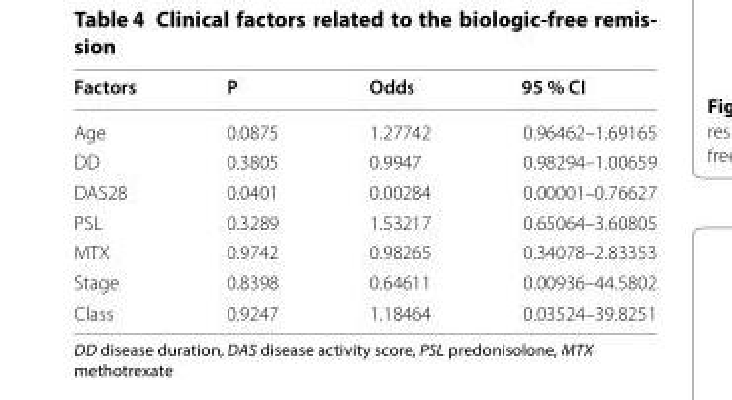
<table><thead><tr><td>Factors</td><td>P</td><td>Odds</td><td>95 % CI</td></tr></thead><tbody><tr><td>Age</td><td>0.0875</td><td>1.27742</td><td>0.96462–1.69165</td></tr><tr><td>DD</td><td>0.3805</td><td>0.9947</td><td>0.98294–1.00659</td></tr><tr><td>DAS28</td><td>0.0401</td><td>0.00284</td><td>0.00001–0.76627</td></tr><tr><td>PSL</td><td>0.3289</td><td>1.53217</td><td>0.65064–3.60805</td></tr><tr><td>MTX</td><td>0.9742</td><td>0.98265</td><td>0.34078–2.83353</td></tr><tr><td>Stage</td><td>0.8398</td><td>0.64611</td><td>0.00936–44.5802</td></tr><tr><td>Class</td><td>0.9247</td><td>1.18464</td><td>0.03524–39.8251</td></tr></tbody></table>